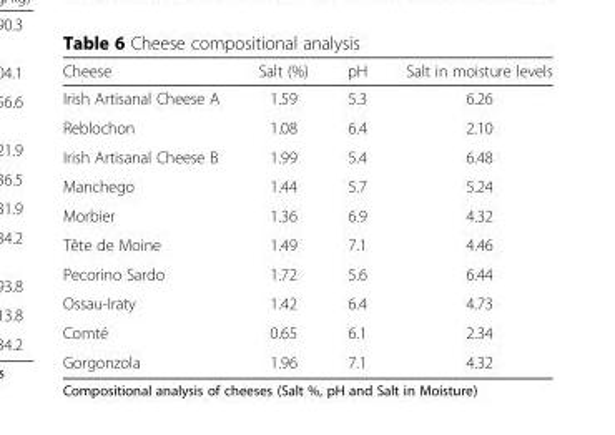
<table><thead><tr><td>Cheese</td><td>Salt (%)</td><td>pH</td><td>Salt in moisture levels</td></tr></thead><tbody><tr><td>Irish Artisanal Cheese A</td><td>1.59</td><td>5.3</td><td>6.26</td></tr><tr><td>Reblochon</td><td>1.08</td><td>6.4</td><td>2.10</td></tr><tr><td>Irish Artisanal Cheese B</td><td>1.99</td><td>5.4</td><td>6.48</td></tr><tr><td>Manchego</td><td>1.44</td><td>5.7</td><td>5.24</td></tr><tr><td>Morbier</td><td>1.36</td><td>6.9</td><td>4.32</td></tr><tr><td>Tête de Moine</td><td>1.49</td><td>7.1</td><td>4.46</td></tr><tr><td>Pecorino Sardo</td><td>1.72</td><td>5.6</td><td>6.44</td></tr><tr><td>Ossau-Iraty</td><td>1.42</td><td>6.4</td><td>4.73</td></tr><tr><td>Comté</td><td>0.65</td><td>6.1</td><td>2.34</td></tr><tr><td>Gorgonzola</td><td>1.96</td><td>7.1</td><td>4.32</td></tr></tbody></table>